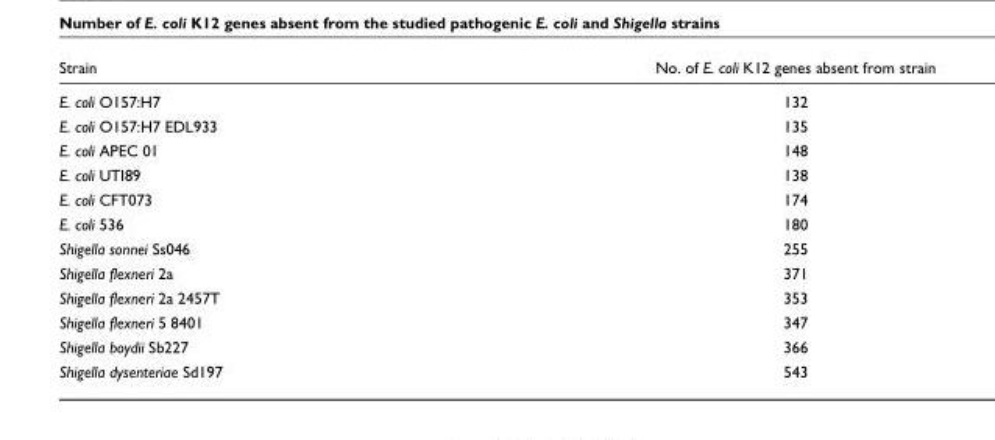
<table><thead><tr><td>Strain</td><td>No. of E. coli K12 genes absent from strain</td></tr></thead><tbody><tr><td>E. coli O157:H7</td><td>132</td></tr><tr><td>E. coli O157:H7 EDL933</td><td>135</td></tr><tr><td>E. coli APEC 01</td><td>148</td></tr><tr><td>E. coli UTI89</td><td>138</td></tr><tr><td>E. coli CFT073</td><td>174</td></tr><tr><td>E. coli 536</td><td>180</td></tr><tr><td>Shigella sonnei Ss046</td><td>255</td></tr><tr><td>Shigella flexneri 2a</td><td>371</td></tr><tr><td>Shigella flexneri 2a 2457T</td><td>353</td></tr><tr><td>Shigella flexneri 5 8401</td><td>347</td></tr><tr><td>Shigella boydii Sb227</td><td>366</td></tr><tr><td>Shigella dysenteriae Sd197</td><td>543</td></tr></tbody></table>